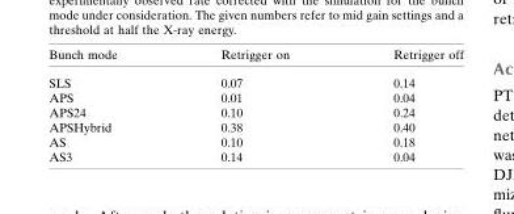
<table><thead><tr><td>Bunch mode</td><td>Retrigger on</td><td>Retrigger off</td></tr></thead><tbody><tr><td>SLS</td><td>0.07</td><td>0.14</td></tr><tr><td>APS</td><td>0.01</td><td>0.04</td></tr><tr><td>APS24</td><td>0.10</td><td>0.24</td></tr><tr><td>APSHybrid</td><td>0.38</td><td>0.40</td></tr><tr><td>AS</td><td>0.10</td><td>0.18</td></tr><tr><td>AS3</td><td>0.14</td><td>0.04</td></tr></tbody></table>